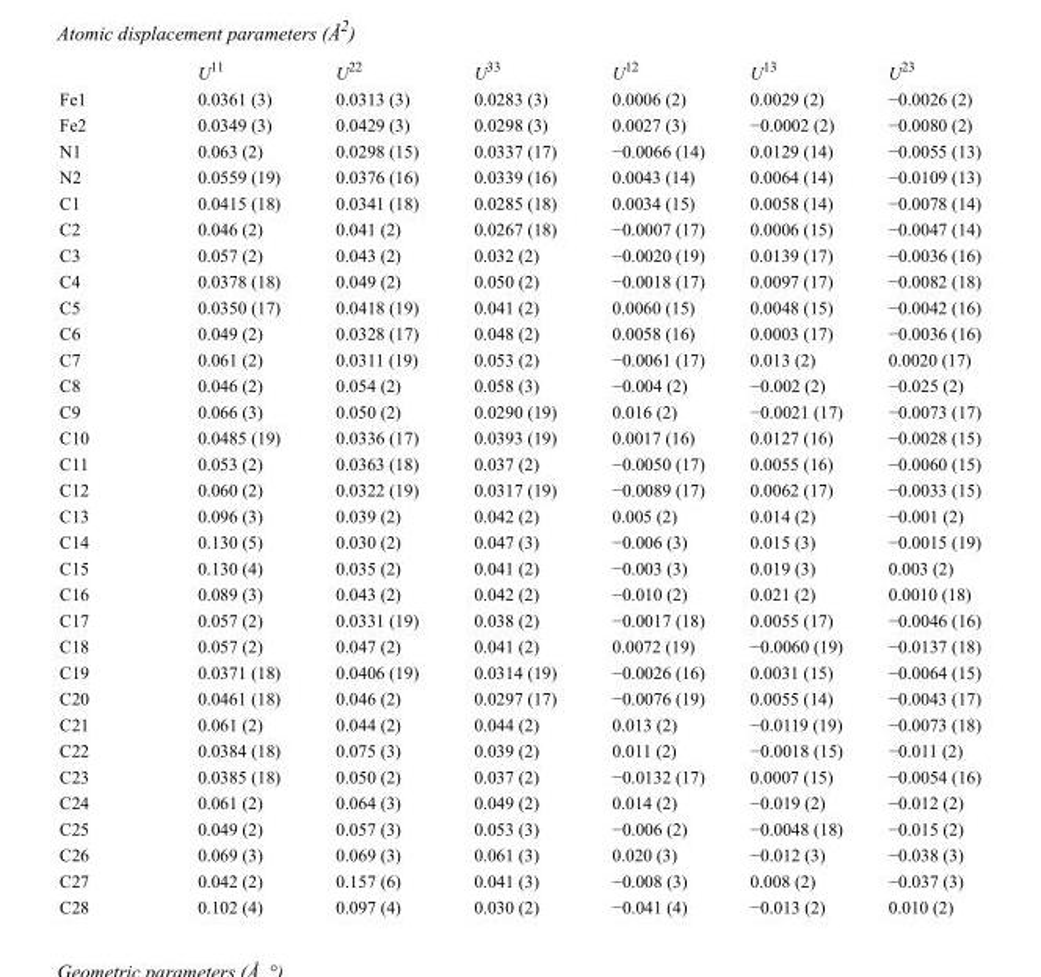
<table><thead><tr><td></td><td>U<sup>11</sup></td><td>U<sup>22</sup></td><td>U<sup>33</sup></td><td>U<sup>12</sup></td><td>U<sup>13</sup></td><td>U<sup>23</sup></td></tr></thead><tbody><tr><td>Fe1</td><td>0.0361 (3)</td><td>0.0313 (3)</td><td>0.0283 (3)</td><td>0.0006 (2)</td><td>0.0029 (2)</td><td>−0.0026 (2)</td></tr><tr><td>Fe2</td><td>0.0349 (3)</td><td>0.0429 (3)</td><td>0.0298 (3)</td><td>0.0027 (3)</td><td>−0.0002 (2)</td><td>−0.0080 (2)</td></tr><tr><td>N1</td><td>0.063 (2)</td><td>0.0298 (15)</td><td>0.0337 (17)</td><td>−0.0066 (14)</td><td>0.0129 (14)</td><td>−0.0055 (13)</td></tr><tr><td>N2</td><td>0.0559 (19)</td><td>0.0376 (16)</td><td>0.0339 (16)</td><td>0.0043 (14)</td><td>0.0064 (14)</td><td>−0.0109 (13)</td></tr><tr><td>C1</td><td>0.0415 (18)</td><td>0.0341 (18)</td><td>0.0285 (18)</td><td>0.0034 (15)</td><td>0.0058 (14)</td><td>−0.0078 (14)</td></tr><tr><td>C2</td><td>0.046 (2)</td><td>0.041 (2)</td><td>0.0267 (18)</td><td>−0.0007 (17)</td><td>0.0006 (15)</td><td>−0.0047 (14)</td></tr><tr><td>C3</td><td>0.057 (2)</td><td>0.043 (2)</td><td>0.032 (2)</td><td>−0.0020 (19)</td><td>0.0139 (17)</td><td>−0.0036 (16)</td></tr><tr><td>C4</td><td>0.0378 (18)</td><td>0.049 (2)</td><td>0.050 (2)</td><td>−0.0018 (17)</td><td>0.0097 (17)</td><td>−0.0082 (18)</td></tr><tr><td>C5</td><td>0.0350 (17)</td><td>0.0418 (19)</td><td>0.041 (2)</td><td>0.0060 (15)</td><td>0.0048 (15)</td><td>−0.0042 (16)</td></tr><tr><td>C6</td><td>0.049 (2)</td><td>0.0328 (17)</td><td>0.048 (2)</td><td>0.0058 (16)</td><td>0.0003 (17)</td><td>−0.0036 (16)</td></tr><tr><td>C7</td><td>0.061 (2)</td><td>0.0311 (19)</td><td>0.053 (2)</td><td>−0.0061 (17)</td><td>0.013 (2)</td><td>0.0020 (17)</td></tr><tr><td>C8</td><td>0.046 (2)</td><td>0.054 (2)</td><td>0.058 (3)</td><td>−0.004 (2)</td><td>−0.002 (2)</td><td>−0.025 (2)</td></tr><tr><td>C9</td><td>0.066 (3)</td><td>0.050 (2)</td><td>0.0290 (19)</td><td>0.016 (2)</td><td>−0.0021 (17)</td><td>−0.0073 (17)</td></tr><tr><td>C10</td><td>0.0485 (19)</td><td>0.0336 (17)</td><td>0.0393 (19)</td><td>0.0017 (16)</td><td>0.0127 (16)</td><td>−0.0028 (15)</td></tr><tr><td>C11</td><td>0.053 (2)</td><td>0.0363 (18)</td><td>0.037 (2)</td><td>−0.0050 (17)</td><td>0.0055 (16)</td><td>−0.0060 (15)</td></tr><tr><td>C12</td><td>0.060 (2)</td><td>0.0322 (19)</td><td>0.0317 (19)</td><td>−0.0089 (17)</td><td>0.0062 (17)</td><td>−0.0033 (15)</td></tr><tr><td>C13</td><td>0.096 (3)</td><td>0.039 (2)</td><td>0.042 (2)</td><td>0.005 (2)</td><td>0.014 (2)</td><td>−0.001 (2)</td></tr><tr><td>C14</td><td>0.130 (5)</td><td>0.030 (2)</td><td>0.047 (3)</td><td>−0.006 (3)</td><td>0.015 (3)</td><td>−0.0015 (19)</td></tr><tr><td>C15</td><td>0.130 (4)</td><td>0.035 (2)</td><td>0.041 (2)</td><td>−0.003 (3)</td><td>0.019 (3)</td><td>0.003 (2)</td></tr><tr><td>C16</td><td>0.089 (3)</td><td>0.043 (2)</td><td>0.042 (2)</td><td>−0.010 (2)</td><td>0.021 (2)</td><td>0.0010 (18)</td></tr><tr><td>C17</td><td>0.057 (2)</td><td>0.0331 (19)</td><td>0.038 (2)</td><td>−0.0017 (18)</td><td>0.0055 (17)</td><td>−0.0046 (16)</td></tr><tr><td>C18</td><td>0.057 (2)</td><td>0.047 (2)</td><td>0.041 (2)</td><td>0.0072 (19)</td><td>−0.0060 (19)</td><td>−0.0137 (18)</td></tr><tr><td>C19</td><td>0.0371 (18)</td><td>0.0406 (19)</td><td>0.0314 (19)</td><td>−0.0026 (16)</td><td>0.0031 (15)</td><td>−0.0064 (15)</td></tr><tr><td>C20</td><td>0.0461 (18)</td><td>0.046 (2)</td><td>0.0297 (17)</td><td>−0.0076 (19)</td><td>0.0055 (14)</td><td>−0.0043 (17)</td></tr><tr><td>C21</td><td>0.061 (2)</td><td>0.044 (2)</td><td>0.044 (2)</td><td>0.013 (2)</td><td>−0.0119 (19)</td><td>−0.0073 (18)</td></tr><tr><td>C22</td><td>0.0384 (18)</td><td>0.075 (3)</td><td>0.039 (2)</td><td>0.011 (2)</td><td>−0.0018 (15)</td><td>−0.011 (2)</td></tr><tr><td>C23</td><td>0.0385 (18)</td><td>0.050 (2)</td><td>0.037 (2)</td><td>−0.0132 (17)</td><td>0.0007 (15)</td><td>−0.0054 (16)</td></tr><tr><td>C24</td><td>0.061 (2)</td><td>0.064 (3)</td><td>0.049 (2)</td><td>0.014 (2)</td><td>−0.019 (2)</td><td>−0.012 (2)</td></tr><tr><td>C25</td><td>0.049 (2)</td><td>0.057 (3)</td><td>0.053 (3)</td><td>−0.006 (2)</td><td>−0.0048 (18)</td><td>−0.015 (2)</td></tr><tr><td>C26</td><td>0.069 (3)</td><td>0.069 (3)</td><td>0.061 (3)</td><td>0.020 (3)</td><td>−0.012 (3)</td><td>−0.038 (3)</td></tr><tr><td>C27</td><td>0.042 (2)</td><td>0.157 (6)</td><td>0.041 (3)</td><td>−0.008 (3)</td><td>0.008 (2)</td><td>−0.037 (3)</td></tr><tr><td>C28</td><td>0.102 (4)</td><td>0.097 (4)</td><td>0.030 (2)</td><td>−0.041 (4)</td><td>−0.013 (2)</td><td>0.010 (2)</td></tr></tbody></table>